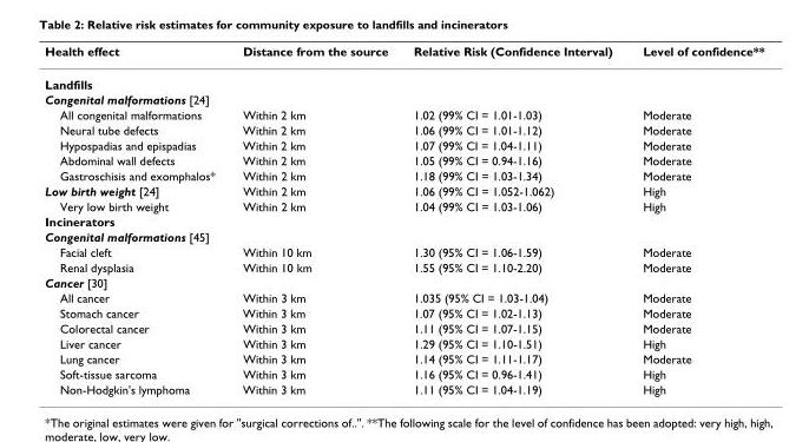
<table><thead><tr><td>Health effect</td><td>Distance from the source</td><td>Relative Risk (Confidence Interval)</td><td>Level of confidence**</td></tr></thead><tbody><tr><td colspan="4">Landfills</td></tr><tr><td colspan="4">Congenital malformations [24]</td></tr><tr><td>All congenital malformations</td><td>Within 2 km</td><td>1.02 (99% CI = 1.01-1.03)</td><td>Moderate</td></tr><tr><td>Neural tube defects</td><td>Within 2 km</td><td>1.06 (99% CI = 1.01-1.12)</td><td>Moderate</td></tr><tr><td>Hypospadias and epispadias</td><td>Within 2 km</td><td>1.07 (99% CI = 1.04-1.11)</td><td>Moderate</td></tr><tr><td>Abdominal wall defects</td><td>Within 2 km</td><td>1.05 (99% CI = 0.94-1.16)</td><td>Moderate</td></tr><tr><td>Gastroschisis and exomphalos*</td><td>Within 2 km</td><td>1.18 (99% CI = 1.03-1.34)</td><td>Moderate</td></tr><tr><td>Low birth weight [24]</td><td>Within 2 km</td><td>1.06 (99% CI = 1.052-1.062)</td><td>High</td></tr><tr><td>Very low birth weight</td><td>Within 2 km</td><td>1.04 (99% CI = 1.03-1.06)</td><td>High</td></tr><tr><td colspan="4">Incinerators</td></tr><tr><td colspan="4">Congenital malformations [45]</td></tr><tr><td>Facial cleft</td><td>Within 10 km</td><td>1.30 (95% CI = 1.06-1.59)</td><td>Moderate</td></tr><tr><td>Renal dysplasia</td><td>Within 10 km</td><td>1.55 (95% CI = 1.10-2.20)</td><td>Moderate</td></tr><tr><td colspan="4">Cancer [30]</td></tr><tr><td>All cancer</td><td>Within 3 km</td><td>1.035 (95% CI = 1.03-1.04)</td><td>Moderate</td></tr><tr><td>Stomach cancer</td><td>Within 3 km</td><td>1.07 (95% CI = 1.02-1.13)</td><td>Moderate</td></tr><tr><td>Colorectal cancer</td><td>Within 3 km</td><td>1.11 (95% CI = 1.07-1.15)</td><td>Moderate</td></tr><tr><td>Liver cancer</td><td>Within 3 km</td><td>1.29 (95% CI = 1.10-1.51)</td><td>High</td></tr><tr><td>Lung cancer</td><td>Within 3 km</td><td>1.14 (95% CI = 1.11-1.17)</td><td>Moderate</td></tr><tr><td>Soft-tissue sarcoma</td><td>Within 3 km</td><td>1.16 (95% CI = 0.96-1.41)</td><td>High</td></tr><tr><td>Non-Hodgkin&#x27;s lymphoma</td><td>Within 3 km</td><td>1.11 (95% CI = 1.04-1.19)</td><td>High</td></tr></tbody></table>